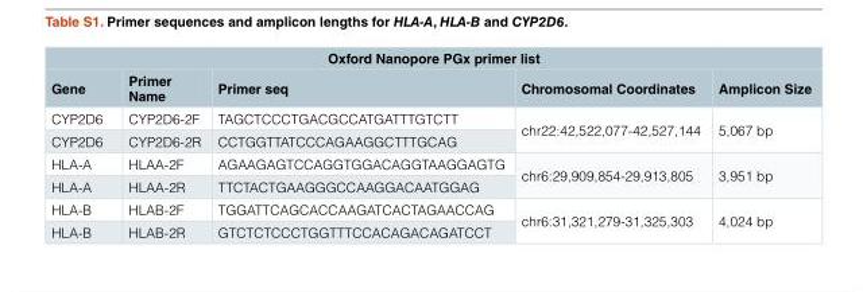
<table><thead><tr><td colspan="5">Oxford Nanopore PGx primer list</td></tr><tr><td>Gene</td><td>Primer Name</td><td>Primer seq</td><td>Chromosomal Coordinates</td><td>Amplicon Size</td></tr></thead><tbody><tr><td>CYP2D6</td><td>CYP2D6-2F</td><td>TAGCTCCCTGACGCCATGATTTGTCTT</td><td rowspan="2">chr22:42,522,077-42,527,144</td><td rowspan="2">5,067 bp</td></tr><tr><td>CYP2D6</td><td>CYP2D6-2R</td><td>CCTGGTTATCCCAGAAGGCTTTGCAG</td></tr><tr><td>HLA-A</td><td>HLAA-2F</td><td>AGAAGAGTCCAGGTGGACAGGTAAGGAGTG</td><td rowspan="2">chr6:29,909,854-29,913,805</td><td rowspan="2">3,951 bp</td></tr><tr><td>HLA-A</td><td>HLAA-2R</td><td>TTCTACTGAAGGGCCAAGGACAATGGAG</td></tr><tr><td>HLA-B</td><td>HLAB-2F</td><td>TGGATTCAGCACCAAGATCACTAGAACCAG</td><td rowspan="2">chr6:31,321,279-31,325,303</td><td rowspan="2">4,024 bp</td></tr><tr><td>HLA-B</td><td>HLAB-2R</td><td>GTCTCTCCCTGGTTTCCACAGACAGATCCT</td></tr></tbody></table>